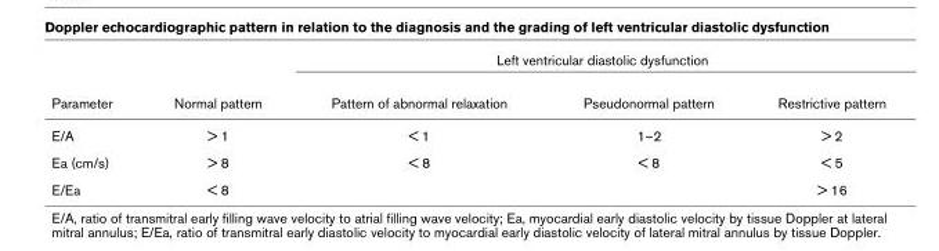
<table><thead><tr><td rowspan="2">Parameter</td><td rowspan="2">Normal pattern</td><td colspan="3">Left ventricular diastolic dysfunction</td></tr><tr><td>Pattern of abnormal relaxation</td><td>Pseudonormal pattern</td><td>Restrictive pattern</td></tr></thead><tbody><tr><td>E/A</td><td>&gt; 1</td><td>&lt; 1</td><td>1–2</td><td>&gt; 2</td></tr><tr><td>Ea (cm/s)</td><td>&gt; 8</td><td>&lt; 8</td><td>&lt; 8</td><td>&lt; 5</td></tr><tr><td>E/Ea</td><td>&lt; 8</td><td></td><td></td><td>&gt; 16</td></tr></tbody></table>